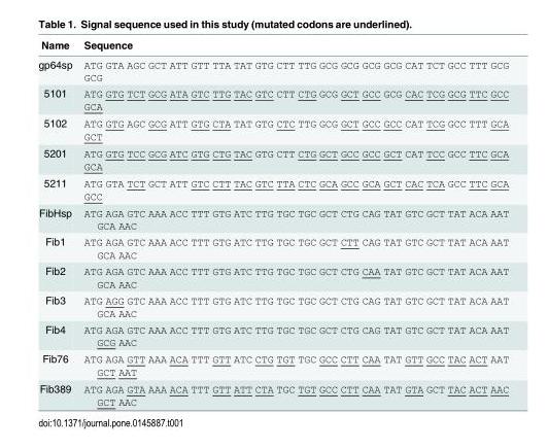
<table><thead><tr><td>Name</td><td>Sequence</td></tr></thead><tbody><tr><td>gp64sp</td><td>ATG GTA AGC GCT ATT GTT TTA TAT GTG CTT TTG GCG GCG GCG GCG CAT TCT GCC TTT GCG GCG</td></tr><tr><td>5101</td><td>ATG GTG TCT GCG ATA GTC TTG TAC GTC CTT CTG GCG GCT GCC GCG CAC TCG GCG TTC GCC GCA</td></tr><tr><td>5102</td><td>ATG GTG AGC GCG ATT GTG CTA TAT GTG CTC TTG GCG GCT GCC GCC CAT TCG GCC TTT GCA GCT</td></tr><tr><td>5201</td><td>ATG GTG TCC GCG ATC GTG CTG TAC GTG CTT CTG GCT GCC GCC GCT CAT TCC GCC TTC GCA GCA</td></tr><tr><td>5211</td><td>ATG GTA TCT GCT ATT GTC CTT TAC GTC TTA CTC GCA GCC GCA GCT CAC TCA GCC TTC GCA GCC</td></tr><tr><td>FibHsp</td><td>ATG AGA GTC AAA ACC TTT GTG ATC TTG TGC TGC GCT CTG CAG TAT GTC GCT TAT ACA AAT GCA AAC</td></tr><tr><td>Fib1</td><td>ATG AGA GTC AAA ACC TTT GTG ATC TTG TGC TGC GCT CTT CAG TAT GTC GCT TAT ACA AAT GCA AAC</td></tr><tr><td>Fib2</td><td>ATG AGA GTC AAA ACC TTT GTG ATC TTG TGC TGC GCT CTG CAA TAT GTC GCT TAT ACA AAT GCA AAC</td></tr><tr><td>Fib3</td><td>ATG AGG GTC AAA ACC TTT GTG ATC TTG TGC TGC GCT CTG CAG TAT GTC GCT TAT ACA AAT GCA AAC</td></tr><tr><td>Fib4</td><td>ATG AGA GTC AAA ACC TTT GTG ATC TTG TGC TGC GCT CTG CAG TAT GTC GCT TAT ACA AAT GCG AAC</td></tr><tr><td>Fib76</td><td>ATG AGA GTT AAA ACA TTT GTT ATC CTG TGT TGC GCC CTT CAA TAT GTT GCC TAC ACT AAT GCT AAT</td></tr><tr><td>Fib389</td><td>ATG AGA GTA AAA ACA TTT GTT ATT CTA TGC TGT GCC CTT CAA TAT GTA GCT TAC ACT AAC GCT AAC</td></tr></tbody></table>